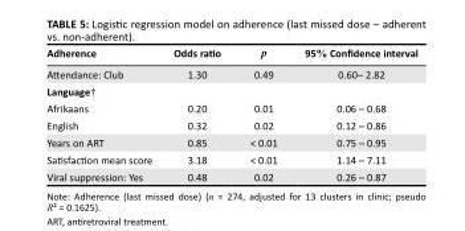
<table><thead><tr><td>Adherence</td><td>Odds ratio</td><td>p</td><td>95% Confidence interval</td></tr></thead><tbody><tr><td>Attendance: Club</td><td>1.30</td><td>0.49</td><td>0.60– 2.82</td></tr><tr><td colspan="4">Language†</td></tr><tr><td>Afrikaans</td><td>0.20</td><td>0.01</td><td>0.06 – 0.68</td></tr><tr><td>English</td><td>0.32</td><td>0.02</td><td>0.12 – 0.86</td></tr><tr><td>Years on ART</td><td>0.85</td><td>&lt; 0.01</td><td>0.75 – 0.95</td></tr><tr><td>Satisfaction mean score</td><td>3.18</td><td>&lt; 0.01</td><td>1.14 – 7.11</td></tr><tr><td>Viral suppression: Yes</td><td>0.48</td><td>0.02</td><td>0.26 – 0.87</td></tr></tbody></table>